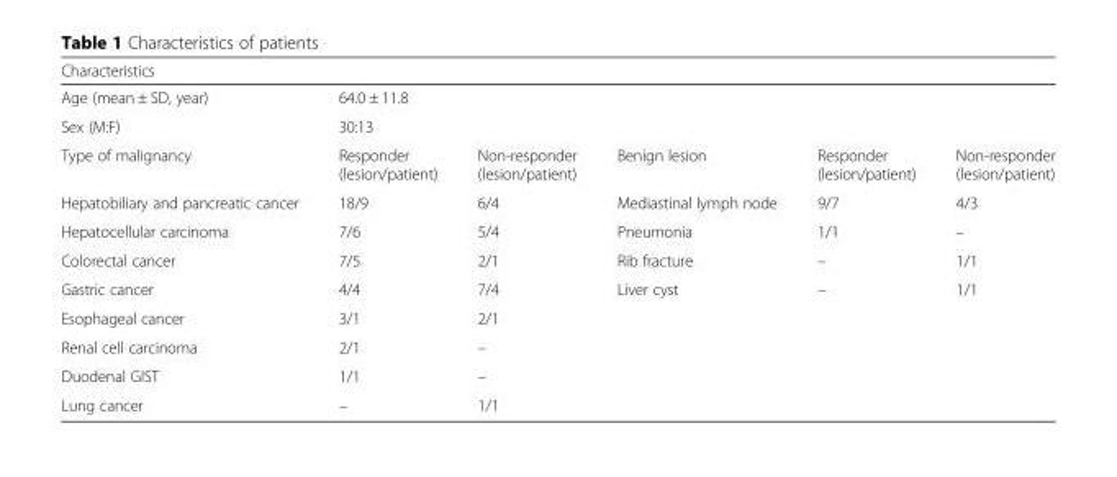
<table><thead><tr><td colspan="6">Characteristics</td></tr><tr><td rowspan="2">Age (mean ± SD, year) Sex (M:F)</td><td colspan="2">64.0 ± 11.8</td><td rowspan="2"></td><td rowspan="2"></td><td rowspan="2"></td></tr><tr><td>30:13</td><td></td></tr></thead><tbody><tr><td>Type of malignancy</td><td>Responder (lesion/patient)</td><td>Non-responder (lesion/patient)</td><td>Benign lesion</td><td>Responder (lesion/patient)</td><td>Non-responder (lesion/patient)</td></tr><tr><td>Hepatobiliary and pancreatic cancer</td><td>18/9</td><td>6/4</td><td>Mediastinal lymph node</td><td>9/7</td><td>4/3</td></tr><tr><td>Hepatocellular carcinoma</td><td>7/6</td><td>5/4</td><td>Pneumonia</td><td>1/1</td><td>–</td></tr><tr><td>Colorectal cancer</td><td>7/5</td><td>2/1</td><td>Rib fracture</td><td>–</td><td>1/1</td></tr><tr><td>Gastric cancer</td><td>4/4</td><td>7/4</td><td>Liver cyst</td><td>–</td><td>1/1</td></tr><tr><td>Esophageal cancer</td><td>3/1</td><td>2/1</td><td></td><td></td><td></td></tr><tr><td>Renal cell carcinoma</td><td>2/1</td><td>–</td><td></td><td></td><td></td></tr><tr><td>Duodenal GIST</td><td>1/1</td><td>–</td><td></td><td></td><td></td></tr><tr><td>Lung cancer</td><td>–</td><td>1/1</td><td></td><td></td><td></td></tr></tbody></table>